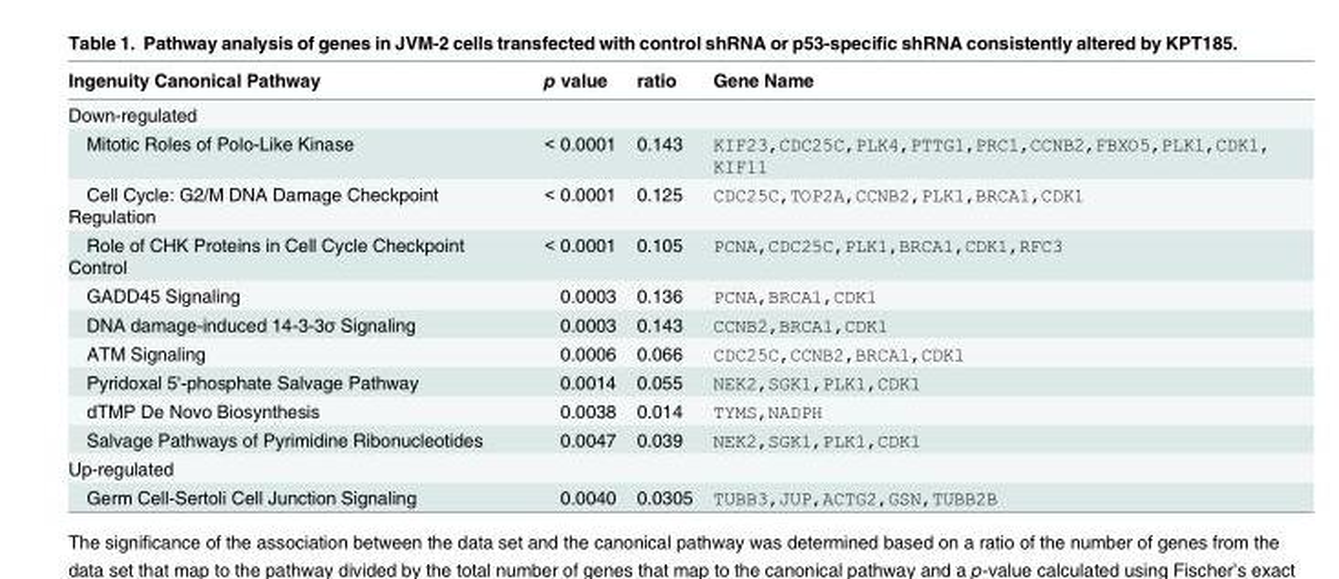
<table><thead><tr><td>Ingenuity Canonical Pathway</td><td>p value</td><td>ratio</td><td>Gene Name</td></tr></thead><tbody><tr><td colspan="4">Down-regulated</td></tr><tr><td>Mitotic Roles of Polo-Like Kinase</td><td>&lt; 0.0001</td><td>0.143</td><td>KIF23,CDC25C,PLK4,PTTG1,PRC1,CCNB2,FBXO5,PLK1,CDK1, KIF11</td></tr><tr><td>Cell Cycle: G2/M DNA Damage Checkpoint Regulation</td><td>&lt; 0.0001</td><td>0.125</td><td>CDC25C,TOP2A,CCNB2,PLK1,BRCA1,CDK1</td></tr><tr><td>Role of CHK Proteins in Cell Cycle Checkpoint Control</td><td>&lt; 0.0001</td><td>0.105</td><td>PCNA,CDC25C,PLK1,BRCA1,CDK1,RFC3</td></tr><tr><td>GADD45 Signaling</td><td>0.0003</td><td>0.136</td><td>PCNA,BRCA1,CDK1</td></tr><tr><td>DNA damage-induced 14-3-3σ Signaling</td><td>0.0003</td><td>0.143</td><td>CCNB2,BRCA1,CDK1</td></tr><tr><td>ATM Signaling</td><td>0.0006</td><td>0.066</td><td>CDC25C,CCNB2,BRCA1,CDK1</td></tr><tr><td>Pyridoxal 5&#x27;-phosphate Salvage Pathway</td><td>0.0014</td><td>0.055</td><td>NEK2,SGK1,PLK1,CDK1</td></tr><tr><td>dTMP De Novo Biosynthesis</td><td>0.0038</td><td>0.014</td><td>TYMS,NADPH</td></tr><tr><td>Salvage Pathways of Pyrimidine Ribonucleotides</td><td>0.0047</td><td>0.039</td><td>NEK2,SGK1,PLK1,CDK1</td></tr><tr><td colspan="4">Up-regulated</td></tr><tr><td>Germ Cell-Sertoli Cell Junction Signaling</td><td>0.0040</td><td>0.0305</td><td>TUBB3,JUP,ACTG2,GSN,TUBB2B</td></tr></tbody></table>